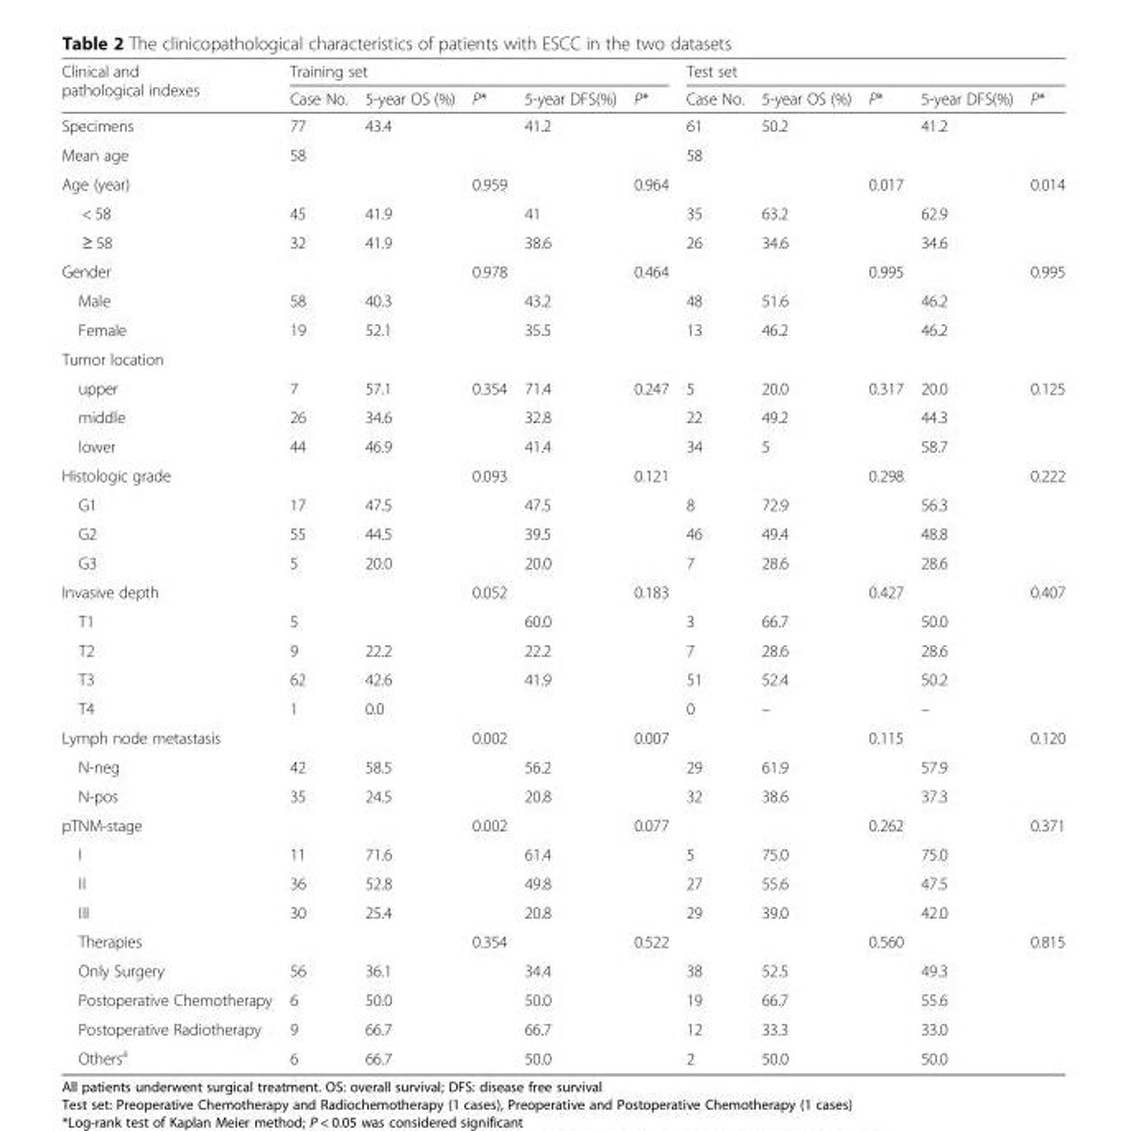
<table><thead><tr><td rowspan="2">Clinical and pathological indexes</td><td colspan="5">Training set</td><td colspan="5">Test set</td></tr><tr><td>Case No.</td><td>5-year OS (%)</td><td>P*</td><td>5-year DFS(%)</td><td>P*</td><td>Case No.</td><td>5-year OS (%)</td><td>P*</td><td>5-year DFS(%)</td><td>P*</td></tr></thead><tbody><tr><td>Specimens</td><td>77</td><td>43.4</td><td></td><td>41.2</td><td></td><td>61</td><td>50.2</td><td></td><td>41.2</td><td></td></tr><tr><td>Mean age</td><td>58</td><td></td><td></td><td></td><td></td><td>58</td><td></td><td></td><td></td><td></td></tr><tr><td>Age (year)</td><td></td><td></td><td>0.959</td><td></td><td>0.964</td><td></td><td></td><td>0.017</td><td></td><td>0.014</td></tr><tr><td>&lt; 58</td><td>45</td><td>41.9</td><td></td><td>41</td><td></td><td>35</td><td>63.2</td><td></td><td>62.9</td><td></td></tr><tr><td>≥ 58</td><td>32</td><td>41.9</td><td></td><td>38.6</td><td></td><td>26</td><td>34.6</td><td></td><td>34.6</td><td></td></tr><tr><td>Gender</td><td></td><td></td><td>0.978</td><td></td><td>0.464</td><td></td><td></td><td>0.995</td><td></td><td>0.995</td></tr><tr><td>Male</td><td>58</td><td>40.3</td><td></td><td>43.2</td><td></td><td>48</td><td>51.6</td><td></td><td>46.2</td><td></td></tr><tr><td>Female</td><td>19</td><td>52.1</td><td></td><td>35.5</td><td></td><td>13</td><td>46.2</td><td></td><td>46.2</td><td></td></tr><tr><td colspan="11">Tumor location</td></tr><tr><td>upper</td><td>7</td><td>57.1</td><td>0.354</td><td>71.4</td><td>0.247</td><td>5</td><td>20.0</td><td>0.317</td><td>20.0</td><td>0.125</td></tr><tr><td>middle</td><td>26</td><td>34.6</td><td></td><td>32.8</td><td></td><td>22</td><td>49.2</td><td></td><td>44.3</td><td></td></tr><tr><td>lower</td><td>44</td><td>46.9</td><td></td><td>41.4</td><td></td><td>34</td><td>5</td><td></td><td>58.7</td><td></td></tr><tr><td>Histologic grade</td><td></td><td></td><td>0.093</td><td></td><td>0.121</td><td></td><td></td><td>0.298</td><td></td><td>0.222</td></tr><tr><td>G1</td><td>17</td><td>47.5</td><td></td><td>47.5</td><td></td><td>8</td><td>72.9</td><td></td><td>56.3</td><td></td></tr><tr><td>G2</td><td>55</td><td>44.5</td><td></td><td>39.5</td><td></td><td>46</td><td>49.4</td><td></td><td>48.8</td><td></td></tr><tr><td>G3</td><td>5</td><td>20.0</td><td></td><td>20.0</td><td></td><td>7</td><td>28.6</td><td></td><td>28.6</td><td></td></tr><tr><td>Invasive depth</td><td></td><td></td><td>0.052</td><td></td><td>0.183</td><td></td><td></td><td>0.427</td><td></td><td>0.407</td></tr><tr><td>T1</td><td>5</td><td></td><td></td><td>60.0</td><td></td><td>3</td><td>66.7</td><td></td><td>50.0</td><td></td></tr><tr><td>T2</td><td>9</td><td>22.2</td><td></td><td>22.2</td><td></td><td>7</td><td>28.6</td><td></td><td>28.6</td><td></td></tr><tr><td>T3</td><td>62</td><td>42.6</td><td></td><td>41.9</td><td></td><td>51</td><td>52.4</td><td></td><td>50.2</td><td></td></tr><tr><td>T4</td><td>1</td><td>0.0</td><td></td><td></td><td></td><td>0</td><td>–</td><td></td><td>–</td><td></td></tr><tr><td>Lymph node metastasis</td><td></td><td></td><td>0.002</td><td></td><td>0.007</td><td></td><td></td><td>0.115</td><td></td><td>0.120</td></tr><tr><td>N-neg</td><td>42</td><td>58.5</td><td></td><td>56.2</td><td></td><td>29</td><td>61.9</td><td></td><td>57.9</td><td></td></tr><tr><td>N-pos</td><td>35</td><td>24.5</td><td></td><td>20.8</td><td></td><td>32</td><td>38.6</td><td></td><td>37.3</td><td></td></tr><tr><td>pTNM-stage</td><td></td><td></td><td>0.002</td><td></td><td>0.077</td><td></td><td></td><td>0.262</td><td></td><td>0.371</td></tr><tr><td>I</td><td>11</td><td>71.6</td><td></td><td>61.4</td><td></td><td>5</td><td>75.0</td><td></td><td>75.0</td><td></td></tr><tr><td>II</td><td>36</td><td>52.8</td><td></td><td>49.8</td><td></td><td>27</td><td>55.6</td><td></td><td>47.5</td><td></td></tr><tr><td>III</td><td>30</td><td>25.4</td><td></td><td>20.8</td><td></td><td>29</td><td>39.0</td><td></td><td>42.0</td><td></td></tr><tr><td>Therapies</td><td></td><td></td><td>0.354</td><td></td><td>0.522</td><td></td><td></td><td>0.560</td><td></td><td>0.815</td></tr><tr><td>Only Surgery</td><td>56</td><td>36.1</td><td></td><td>34.4</td><td></td><td>38</td><td>52.5</td><td></td><td>49.3</td><td></td></tr><tr><td>Postoperative Chemotherapy</td><td>6</td><td>50.0</td><td></td><td>50.0</td><td></td><td>19</td><td>66.7</td><td></td><td>55.6</td><td></td></tr><tr><td>Postoperative Radiotherapy</td><td>9</td><td>66.7</td><td></td><td>66.7</td><td></td><td>12</td><td>33.3</td><td></td><td>33.0</td><td></td></tr><tr><td>Others<sup>a</sup></td><td>6</td><td>66.7</td><td></td><td>50.0</td><td></td><td>2</td><td>50.0</td><td></td><td>50.0</td><td></td></tr></tbody></table>